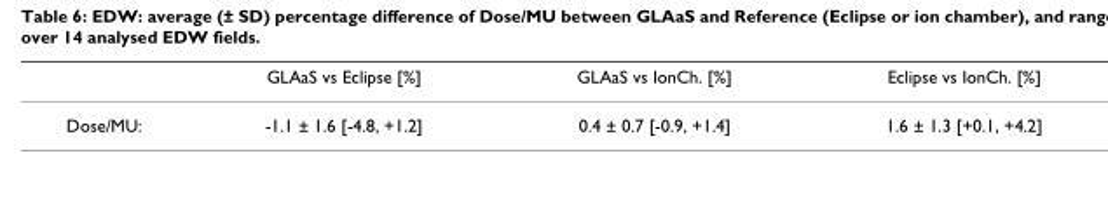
<table><thead><tr><td></td><td>GLAaS vs Eclipse [%]</td><td>GLAaS vs IonCh. [%]</td><td>Eclipse vs IonCh. [%]</td></tr></thead><tbody><tr><td>Dose/MU:</td><td>-1.1 ± 1.6 [-4.8, +1.2]</td><td>0.4 ± 0.7 [-0.9, +1.4]</td><td>1.6 ± 1.3 [+0.1, +4.2]</td></tr></tbody></table>